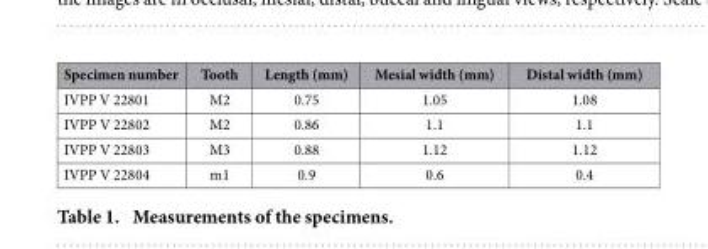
<table><thead><tr><td>Specimen number</td><td>Tooth</td><td>Length (mm)</td><td>Mesial width (mm)</td><td>Distal width (mm)</td></tr></thead><tbody><tr><td>IVPP V 22801</td><td>M2</td><td>0.75</td><td>1.05</td><td>1.08</td></tr><tr><td>IVPP V 22802</td><td>M2</td><td>0.86</td><td>1.1</td><td>1.1</td></tr><tr><td>IVPP V 22803</td><td>M3</td><td>0.88</td><td>1.12</td><td>1.12</td></tr><tr><td>IVPP V 22804</td><td>m1</td><td>0.9</td><td>0.6</td><td>0.4</td></tr></tbody></table>